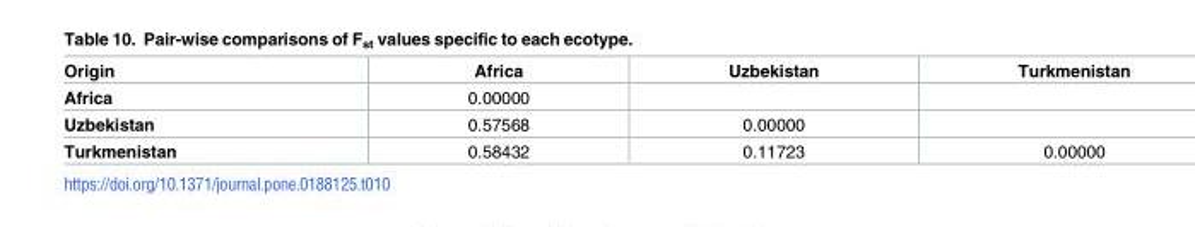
<table><tbody><tr><td>Origin</td><td>Africa</td><td>Uzbekistan</td><td>Turkmenistan</td></tr><tr><td>Africa</td><td>0.00000</td><td></td><td></td></tr><tr><td>Uzbekistan</td><td>0.57568</td><td>0.00000</td><td></td></tr><tr><td>Turkmenistan</td><td>0.58432</td><td>0.11723</td><td>0.00000</td></tr></tbody></table>